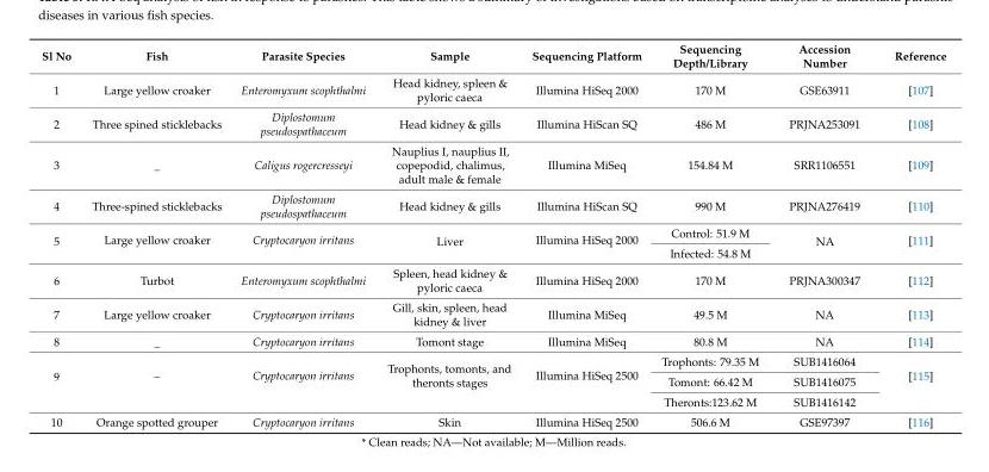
<table><thead><tr><td>Sl No</td><td>Fish</td><td>Parasite Species</td><td>Sample</td><td>Sequencing Platform</td><td>Sequencing Depth/Library</td><td>Accession Number</td><td>Reference</td></tr></thead><tbody><tr><td>1</td><td>Large yellow croaker</td><td>Enteromyxum scophthalmi</td><td>Head kidney, spleen &amp; pyloric caeca</td><td>Illumina HiSeq 2000</td><td>170 M</td><td>GSE63911</td><td>[107]</td></tr><tr><td>2</td><td>Three spined sticklebacks</td><td>Diplostomum pseudospathaceum</td><td>Head kidney &amp; gills</td><td>Illumina HiScan SQ</td><td>486 M</td><td>PRJNA253091</td><td>[108]</td></tr><tr><td>3</td><td>_</td><td>Caligus rogercresseyi</td><td>Nauplius I, nauplius II, copepodid, chalimus, adult male &amp; female</td><td>Illumina MiSeq</td><td>154.84 M</td><td>SRR1106551</td><td>[109]</td></tr><tr><td>4</td><td>Three-spined sticklebacks</td><td>Diplostomum pseudospathaceum</td><td>Head kidney &amp; gills</td><td>Illumina HiScan SQ</td><td>990 M</td><td>PRJNA276419</td><td>[110]</td></tr><tr><td rowspan="2">5</td><td rowspan="2">Large yellow croaker</td><td rowspan="2">Cryptocaryon irritans</td><td rowspan="2">Liver</td><td rowspan="2">Illumina HiSeq 2000</td><td>Control: 51.9 M</td><td rowspan="2">NA</td><td rowspan="2">[111]</td></tr><tr><td>Infected: 54.8 M</td></tr><tr><td>6</td><td>Turbot</td><td>Enteromyxum scophthalmi</td><td>Spleen, head kidney &amp; pyloric caeca</td><td>Illumina HiSeq 2000</td><td>170 M</td><td>PRJNA300347</td><td>[112]</td></tr><tr><td>7</td><td>Large yellow croaker</td><td>Cryptocaryon irritans</td><td>Gill, skin, spleen, head kidney &amp; liver</td><td>Illumina MiSeq</td><td>49.5 M</td><td>NA</td><td>[113]</td></tr><tr><td>8</td><td>_</td><td>Cryptocaryon irritans</td><td>Tomont stage</td><td>Illumina MiSeq</td><td>80.8 M</td><td>NA</td><td>[114]</td></tr><tr><td rowspan="3">9</td><td rowspan="3">_</td><td rowspan="3">Cryptocaryon irritans</td><td rowspan="3">Trophonts, tomonts, and theronts stages</td><td rowspan="3">Illumina HiSeq 2500</td><td>Trophonts: 79.35 M</td><td>SUB1416064</td><td rowspan="3">[115]</td></tr><tr><td>Tomont: 66.42 M</td><td>SUB1416075</td></tr><tr><td>Theronts:123.62 M</td><td>SUB1416142</td></tr><tr><td>10</td><td>Orange spotted grouper</td><td>Cryptocaryon irritans</td><td>Skin</td><td>Illumina HiSeq 2500</td><td>506.6 M</td><td>GSE97397</td><td>[116]</td></tr></tbody></table>